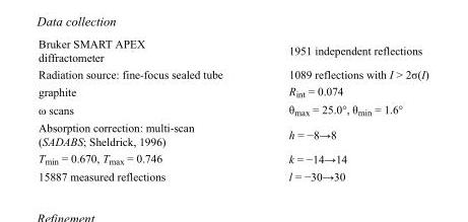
<table><tbody><tr><td>Bruker SMART APEX diffractometer</td><td>1951 independent reflections</td></tr><tr><td>Radiation source: fine-focus sealed tube</td><td>1089 reflections with I &gt; 2σ(I)</td></tr><tr><td>graphite</td><td>R<sub>int</sub> = 0.074</td></tr><tr><td>ω scans</td><td>θ<sub>max</sub> = 25.0°, θ<sub>min</sub> = 1.6°</td></tr><tr><td>Absorption correction: multi-scan (SADABS; Sheldrick, 1996)</td><td>h = −8→8</td></tr><tr><td>T<sub>min</sub> = 0.670, T<sub>max</sub> = 0.746</td><td>k = −14→14</td></tr><tr><td>15887 measured reflections</td><td>l = −30→30</td></tr></tbody></table>